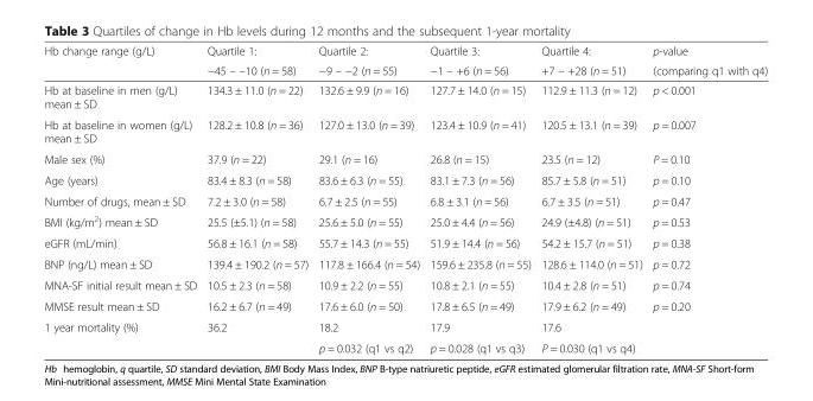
<table><thead><tr><td rowspan="2">Hb change range (g/L)</td><td rowspan="2">Quartile 1: −45 – –10 (n = 58)</td><td rowspan="2">Quartile 2: −9 – −2 (n = 55)</td><td rowspan="2">Quartile 3: −1 – +6 (n = 56)</td><td rowspan="2">Quartile 4: +7 – +28 (n = 51)</td><td rowspan="2">p-value (comparing q1 with q4)</td></tr><tr></tr></thead><tbody><tr><td>Hb at baseline in men (g/L) mean ± SD</td><td>134.3 ± 11.0 (n = 22)</td><td>132.6 ± 9.9 (n = 16)</td><td>127.7 ± 14.0 (n = 15)</td><td>112.9 ± 11.3 (n = 12)</td><td>p &lt; 0.001</td></tr><tr><td>Hb at baseline in women (g/L) mean ± SD</td><td>128.2 ± 10.8 (n = 36)</td><td>127.0 ± 13.0 (n = 39)</td><td>123.4 ± 10.9 (n = 41)</td><td>120.5 ± 13.1 (n = 39)</td><td>p = 0.007</td></tr><tr><td>Male sex (%)</td><td>37.9 (n = 22)</td><td>29.1 (n = 16)</td><td>26.8 (n = 15)</td><td>23.5 (n = 12)</td><td>P = 0.10</td></tr><tr><td>Age (years)</td><td>83.4 ± 8.3 (n = 58)</td><td>83.6 ± 6.3 (n = 55)</td><td>83.1 ± 7.3 (n = 56)</td><td>85.7 ± 5.8 (n = 51)</td><td>p = 0.10</td></tr><tr><td>Number of drugs, mean ± SD</td><td>7.2 ± 3.0 (n = 58)</td><td>6.7 ± 2.5 (n = 55)</td><td>6.8 ± 3.1 (n = 56)</td><td>6.7 ± 3.5 (n = 51)</td><td>p = 0.47</td></tr><tr><td>BMI (kg/m<sup>2</sup>) mean ± SD</td><td>25.5 (±5.1) (n = 58)</td><td>25.6 ± 5.0 (n = 55)</td><td>25.0 ± 4.4 (n = 56)</td><td>24.9 (±4.8) (n = 51)</td><td>p = 0.53</td></tr><tr><td>eGFR (mL/min)</td><td>56.8 ± 16.1 (n = 58)</td><td>55.7 ± 14.3 (n = 55)</td><td>51.9 ± 14.4 (n = 56)</td><td>54.2 ± 15.7 (n = 51)</td><td>p = 0.38</td></tr><tr><td>BNP (ng/L) mean ± SD</td><td>139.4 ± 190.2 (n = 57)</td><td>117.8 ± 166.4 (n = 54)</td><td>159.6 ± 235.8 (n = 55)</td><td>128.6 ± 114.0 (n = 51)</td><td>p = 0.72</td></tr><tr><td>MNA-SF initial result mean ± SD</td><td>10.5 ± 2.3 (n = 58)</td><td>10.9 ± 2.2 (n = 55)</td><td>10.8 ± 2.1 (n = 55)</td><td>10.4 ± 2.8 (n = 51)</td><td>p = 0.74</td></tr><tr><td>MMSE result mean ± SD</td><td>16.2 ± 6.7 (n = 49)</td><td>17.6 ± 6.0 (n = 50)</td><td>17.8 ± 6.5 (n = 49)</td><td>17.9 ± 6.2 (n = 49)</td><td>p = 0.20</td></tr><tr><td rowspan="2">1 year mortality (%)</td><td rowspan="2">36.2</td><td>18.2</td><td>17.9</td><td>17.6</td><td rowspan="2"></td></tr><tr><td>p = 0.032 (q1 vs q2)</td><td>p = 0.028 (q1 vs q3)</td><td>P = 0.030 (q1 vs q4)</td></tr></tbody></table>